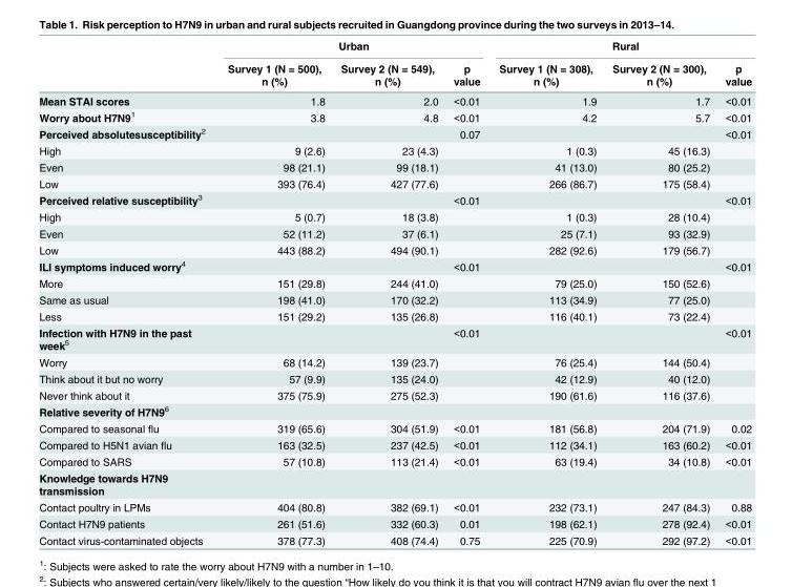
<table><thead><tr><td rowspan="2"></td><td colspan="3">Urban</td><td colspan="3">Rural</td></tr><tr><td>Survey 1 (N = 500), n (%)</td><td>Survey 2 (N = 549), n (%)</td><td>p value</td><td>Survey 1 (N = 308), n (%)</td><td>Survey 2 (N = 300), n (%)</td><td>p value</td></tr></thead><tbody><tr><td>Mean STAI scores</td><td>1.8</td><td>2.0</td><td>&lt;0.01</td><td>1.9</td><td>1.7</td><td>&lt;0.01</td></tr><tr><td>Worry about H7N9<sup>1</sup></td><td>3.8</td><td>4.8</td><td>&lt;0.01</td><td>4.2</td><td>5.7</td><td>&lt;0.01</td></tr><tr><td>Perceived absolutesusceptibility<sup>2</sup></td><td></td><td></td><td>0.07</td><td></td><td></td><td>&lt;0.01</td></tr><tr><td>High</td><td>9 (2.6)</td><td>23 (4.3)</td><td></td><td>1 (0.3)</td><td>45 (16.3)</td><td></td></tr><tr><td>Even</td><td>98 (21.1)</td><td>99 (18.1)</td><td></td><td>41 (13.0)</td><td>80 (25.2)</td><td></td></tr><tr><td>Low</td><td>393 (76.4)</td><td>427 (77.6)</td><td></td><td>266 (86.7)</td><td>175 (58.4)</td><td></td></tr><tr><td>Perceived relative susceptibility<sup>3</sup></td><td></td><td></td><td>&lt;0.01</td><td></td><td></td><td>&lt;0.01</td></tr><tr><td>High</td><td>5 (0.7)</td><td>18 (3.8)</td><td></td><td>1 (0.3)</td><td>28 (10.4)</td><td></td></tr><tr><td>Even</td><td>52 (11.2)</td><td>37 (6.1)</td><td></td><td>25 (7.1)</td><td>93 (32.9)</td><td></td></tr><tr><td>Low</td><td>443 (88.2)</td><td>494 (90.1)</td><td></td><td>282 (92.6)</td><td>179 (56.7)</td><td></td></tr><tr><td>ILI symptoms induced worry<sup>4</sup></td><td></td><td></td><td>&lt;0.01</td><td></td><td></td><td>&lt;0.01</td></tr><tr><td>More</td><td>151 (29.8)</td><td>244 (41.0)</td><td></td><td>79 (25.0)</td><td>150 (52.6)</td><td></td></tr><tr><td>Same as usual</td><td>198 (41.0)</td><td>170 (32.2)</td><td></td><td>113 (34.9)</td><td>77 (25.0)</td><td></td></tr><tr><td>Less</td><td>151 (29.2)</td><td>135 (26.8)</td><td></td><td>116 (40.1)</td><td>73 (22.4)</td><td></td></tr><tr><td>Infection with H7N9 in the past week<sup>5</sup></td><td></td><td></td><td>&lt;0.01</td><td></td><td></td><td>&lt;0.01</td></tr><tr><td>Worry</td><td>68 (14.2)</td><td>139 (23.7)</td><td></td><td>76 (25.4)</td><td>144 (50.4)</td><td></td></tr><tr><td>Think about it but no worry</td><td>57 (9.9)</td><td>135 (24.0)</td><td></td><td>42 (12.9)</td><td>40 (12.0)</td><td></td></tr><tr><td>Never think about it</td><td>375 (75.9)</td><td>275 (52.3)</td><td></td><td>190 (61.6)</td><td>116 (37.6)</td><td></td></tr><tr><td colspan="7">Relative severity of H7N9<sup>6</sup></td></tr><tr><td>Compared to seasonal flu</td><td>319 (65.6)</td><td>304 (51.9)</td><td>&lt;0.01</td><td>181 (56.8)</td><td>204 (71.9)</td><td>0.02</td></tr><tr><td>Compared to H5N1 avian flu</td><td>163 (32.5)</td><td>237 (42.5)</td><td>&lt;0.01</td><td>112 (34.1)</td><td>163 (60.2)</td><td>&lt;0.01</td></tr><tr><td>Compared to SARS</td><td>57 (10.8)</td><td>113 (21.4)</td><td>&lt;0.01</td><td>63 (19.4)</td><td>34 (10.8)</td><td>&lt;0.01</td></tr><tr><td colspan="7">Knowledge towards H7N9 transmission</td></tr><tr><td>Contact poultry in LPMs</td><td>404 (80.8)</td><td>382 (69.1)</td><td>&lt;0.01</td><td>232 (73.1)</td><td>247 (84.3)</td><td>0.88</td></tr><tr><td>Contact H7N9 patients</td><td>261 (51.6)</td><td>332 (60.3)</td><td>0.01</td><td>198 (62.1)</td><td>278 (92.4)</td><td>&lt;0.01</td></tr><tr><td>Contact virus-contaminated objects</td><td>378 (77.3)</td><td>408 (74.4)</td><td>0.75</td><td>225 (70.9)</td><td>292 (97.2)</td><td>&lt;0.01</td></tr></tbody></table>